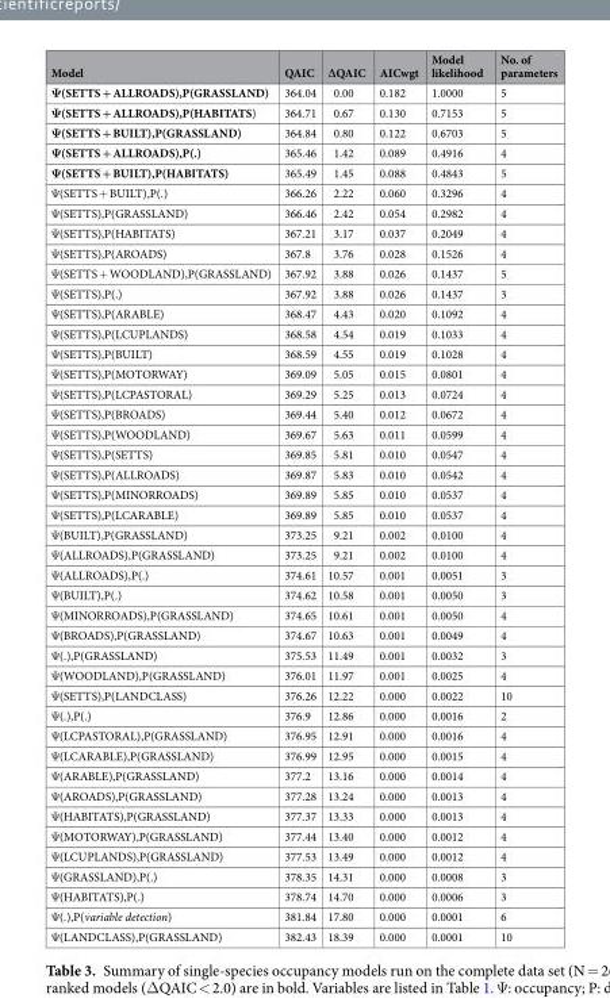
<table><thead><tr><td>Model</td><td>QAIC</td><td>∆QAIC</td><td>AICwgt</td><td>Model likelihood</td><td>No. of parameters</td></tr></thead><tbody><tr><td>Ψ(SETTS + ALLROADS),P(GRASSLAND)</td><td>364.04</td><td>0.00</td><td>0.182</td><td>1.0000</td><td>5</td></tr><tr><td>Ψ(SETTS + ALLROADS),P(HABITATS)</td><td>364.71</td><td>0.67</td><td>0.130</td><td>0.7153</td><td>5</td></tr><tr><td>Ψ(SETTS + BUILT),P(GRASSLAND)</td><td>364.84</td><td>0.80</td><td>0.122</td><td>0.6703</td><td>5</td></tr><tr><td>Ψ(SETTS + ALLROADS),P(.)</td><td>365.46</td><td>1.42</td><td>0.089</td><td>0.4916</td><td>4</td></tr><tr><td>Ψ(SETTS + BUILT),P(HABITATS)</td><td>365.49</td><td>1.45</td><td>0.088</td><td>0.4843</td><td>5</td></tr><tr><td>Ψ(SETTS + BUILT),P(.)</td><td>366.26</td><td>2.22</td><td>0.060</td><td>0.3296</td><td>4</td></tr><tr><td>Ψ(SETTS),P(GRASSLAND)</td><td>366.46</td><td>2.42</td><td>0.054</td><td>0.2982</td><td>4</td></tr><tr><td>Ψ(SETTS),P(HABITATS)</td><td>367.21</td><td>3.17</td><td>0.037</td><td>0.2049</td><td>4</td></tr><tr><td>Ψ(SETTS),P(AROADS)</td><td>367.8</td><td>3.76</td><td>0.028</td><td>0.1526</td><td>4</td></tr><tr><td>Ψ(SETTS + WOODLAND),P(GRASSLAND)</td><td>367.92</td><td>3.88</td><td>0.026</td><td>0.1437</td><td>5</td></tr><tr><td>Ψ(SETTS),P(.)</td><td>367.92</td><td>3.88</td><td>0.026</td><td>0.1437</td><td>3</td></tr><tr><td>Ψ(SETTS),P(ARABLE)</td><td>368.47</td><td>4.43</td><td>0.020</td><td>0.1092</td><td>4</td></tr><tr><td>Ψ(SETTS),P(LCUPLANDS)</td><td>368.58</td><td>4.54</td><td>0.019</td><td>0.1033</td><td>4</td></tr><tr><td>Ψ(SETTS),P(BUILT)</td><td>368.59</td><td>4.55</td><td>0.019</td><td>0.1028</td><td>4</td></tr><tr><td>Ψ(SETTS),P(MOTORWAY)</td><td>369.09</td><td>5.05</td><td>0.015</td><td>0.0801</td><td>4</td></tr><tr><td>Ψ(SETTS),P(LCPASTORAL)</td><td>369.29</td><td>5.25</td><td>0.013</td><td>0.0724</td><td>4</td></tr><tr><td>Ψ(SETTS),P(BROADS)</td><td>369.44</td><td>5.40</td><td>0.012</td><td>0.0672</td><td>4</td></tr><tr><td>Ψ(SETTS),P(WOODLAND)</td><td>369.67</td><td>5.63</td><td>0.011</td><td>0.0599</td><td>4</td></tr><tr><td>Ψ(SETTS),P(SETTS)</td><td>369.85</td><td>5.81</td><td>0.010</td><td>0.0547</td><td>4</td></tr><tr><td>Ψ(SETTS),P(ALLROADS)</td><td>369.87</td><td>5.83</td><td>0.010</td><td>0.0542</td><td>4</td></tr><tr><td>Ψ(SETTS),P(MINORROADS)</td><td>369.89</td><td>5.85</td><td>0.010</td><td>0.0537</td><td>4</td></tr><tr><td>Ψ(SETTS),P(LCARABLE)</td><td>369.89</td><td>5.85</td><td>0.010</td><td>0.0537</td><td>4</td></tr><tr><td>Ψ(BUILT),P(GRASSLAND)</td><td>373.25</td><td>9.21</td><td>0.002</td><td>0.0100</td><td>4</td></tr><tr><td>Ψ(ALLROADS),P(GRASSLAND)</td><td>373.25</td><td>9.21</td><td>0.002</td><td>0.0100</td><td>4</td></tr><tr><td>Ψ(ALLROADS),P(.)</td><td>374.61</td><td>10.57</td><td>0.001</td><td>0.0051</td><td>3</td></tr><tr><td>Ψ(BUILT),P(.)</td><td>374.62</td><td>10.58</td><td>0.001</td><td>0.0050</td><td>3</td></tr><tr><td>Ψ(MINORROADS),P(GRASSLAND)</td><td>374.65</td><td>10.61</td><td>0.001</td><td>0.0050</td><td>4</td></tr><tr><td>Ψ(BROADS),P(GRASSLAND)</td><td>374.67</td><td>10.63</td><td>0.001</td><td>0.0049</td><td>4</td></tr><tr><td>Ψ(.),P(GRASSLAND)</td><td>375.53</td><td>11.49</td><td>0.001</td><td>0.0032</td><td>3</td></tr><tr><td>Ψ(WOODLAND),P(GRASSLAND)</td><td>376.01</td><td>11.97</td><td>0.001</td><td>0.0025</td><td>4</td></tr><tr><td>Ψ(SETTS),P(LANDCLASS)</td><td>376.26</td><td>12.22</td><td>0.000</td><td>0.0022</td><td>10</td></tr><tr><td>Ψ(.),P(.)</td><td>376.9</td><td>12.86</td><td>0.000</td><td>0.0016</td><td>2</td></tr><tr><td>Ψ(LCPASTORAL),P(GRASSLAND)</td><td>376.95</td><td>12.91</td><td>0.000</td><td>0.0016</td><td>4</td></tr><tr><td>Ψ(LCARABLE),P(GRASSLAND)</td><td>376.99</td><td>12.95</td><td>0.000</td><td>0.0015</td><td>4</td></tr><tr><td>Ψ(ARABLE),P(GRASSLAND)</td><td>377.2</td><td>13.16</td><td>0.000</td><td>0.0014</td><td>4</td></tr><tr><td>Ψ(AROADS),P(GRASSLAND)</td><td>377.28</td><td>13.24</td><td>0.000</td><td>0.0013</td><td>4</td></tr><tr><td>Ψ(HABITATS),P(GRASSLAND)</td><td>377.37</td><td>13.33</td><td>0.000</td><td>0.0013</td><td>4</td></tr><tr><td>Ψ(MOTORWAY),P(GRASSLAND)</td><td>377.44</td><td>13.40</td><td>0.000</td><td>0.0012</td><td>4</td></tr><tr><td>Ψ(LCUPLANDS),P(GRASSLAND)</td><td>377.53</td><td>13.49</td><td>0.000</td><td>0.0012</td><td>4</td></tr><tr><td>Ψ(GRASSLAND),P(.)</td><td>378.35</td><td>14.31</td><td>0.000</td><td>0.0008</td><td>3</td></tr><tr><td>Ψ(HABITATS),P(.)</td><td>378.74</td><td>14.70</td><td>0.000</td><td>0.0006</td><td>3</td></tr><tr><td>Ψ(.),P(variable detection)</td><td>381.84</td><td>17.80</td><td>0.000</td><td>0.0001</td><td>6</td></tr><tr><td>Ψ(LANDCLASS),P(GRASSLAND)</td><td>382.43</td><td>18.39</td><td>0.000</td><td>0.0001</td><td>10</td></tr></tbody></table>